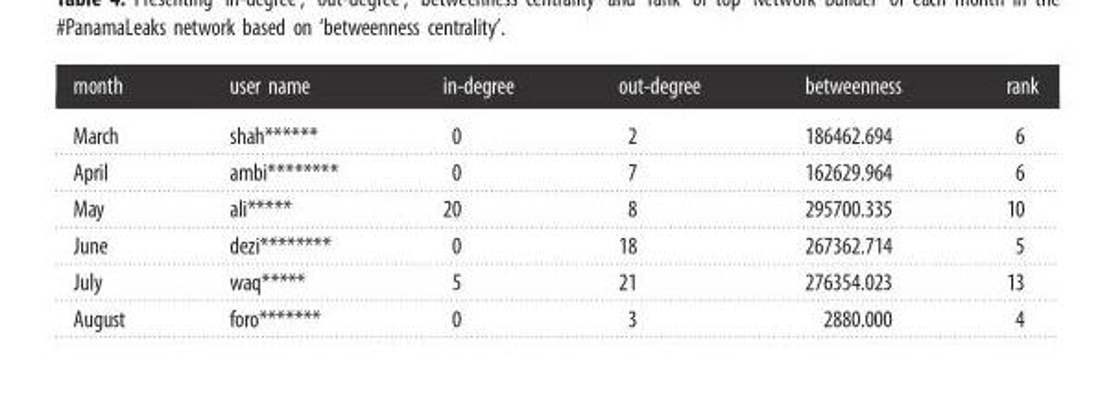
<table><thead><tr><td>month</td><td>user name</td><td>in-degree</td><td>out-degree</td><td>betweenness</td><td>rank</td></tr></thead><tbody><tr><td>March</td><td>shah******</td><td>0</td><td>2</td><td>186462.694</td><td>6</td></tr><tr><td>April</td><td>ambi********</td><td>0</td><td>7</td><td>162629.964</td><td>6</td></tr><tr><td>May</td><td>ali*****</td><td>20</td><td>8</td><td>295700.335</td><td>10</td></tr><tr><td>June</td><td>dezi********</td><td>0</td><td>18</td><td>267362.714</td><td>5</td></tr><tr><td>July</td><td>waq*****</td><td>5</td><td>21</td><td>276354.023</td><td>13</td></tr><tr><td>August</td><td>foro*******</td><td>0</td><td>3</td><td>2880.000</td><td>4</td></tr></tbody></table>